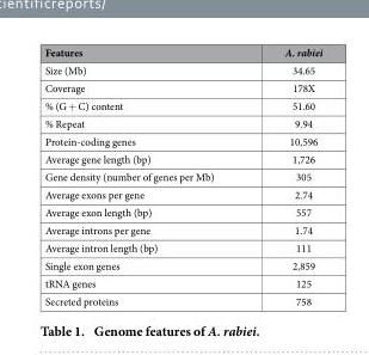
<table><thead><tr><td>Features</td><td>A. rabiei</td></tr></thead><tbody><tr><td>Size (Mb)</td><td>34.65</td></tr><tr><td>Coverage</td><td>178X</td></tr><tr><td>% (G + C) content</td><td>51.60</td></tr><tr><td>% Repeat</td><td>9.94</td></tr><tr><td>Protein-coding genes</td><td>10,596</td></tr><tr><td>Average gene length (bp)</td><td>1,726</td></tr><tr><td>Gene density (number of genes per Mb)</td><td>305</td></tr><tr><td>Average exons per gene</td><td>2.74</td></tr><tr><td>Average exon length (bp)</td><td>557</td></tr><tr><td>Average introns per gene</td><td>1.74</td></tr><tr><td>Average intron length (bp)</td><td>111</td></tr><tr><td>Single exon genes</td><td>2,859</td></tr><tr><td>tRNA genes</td><td>125</td></tr><tr><td>Secreted proteins</td><td>758</td></tr></tbody></table>